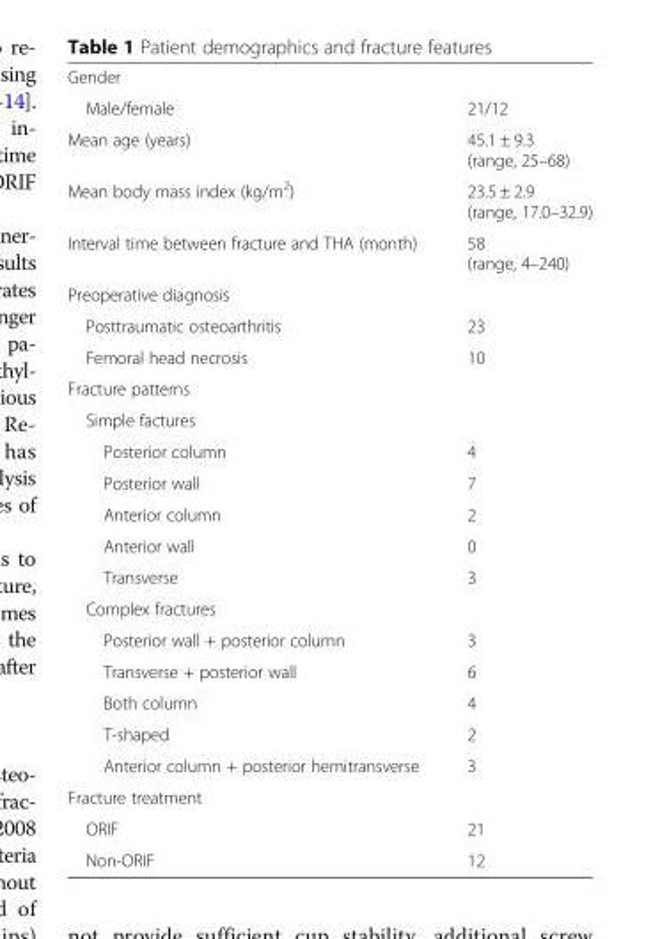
<table><tbody><tr><td colspan="2">Gender</td></tr><tr><td>Male/female</td><td>21/12</td></tr><tr><td>Mean age (years)</td><td>45.1 ± 9.3 (range, 25–68)</td></tr><tr><td>Mean body mass index (kg/m<sup>2</sup>)</td><td>23.5 ± 2.9 (range, 17.0–32.9)</td></tr><tr><td>Interval time between fracture and THA (month)</td><td>58 (range, 4–240)</td></tr><tr><td colspan="2">Preoperative diagnosis</td></tr><tr><td>Posttraumatic osteoarthritis</td><td>23</td></tr><tr><td>Femoral head necrosis</td><td>10</td></tr><tr><td colspan="2">Fracture patterns</td></tr><tr><td colspan="2">Simple factures</td></tr><tr><td>Posterior column</td><td>4</td></tr><tr><td>Posterior wall</td><td>7</td></tr><tr><td>Anterior column</td><td>2</td></tr><tr><td>Anterior wall</td><td>0</td></tr><tr><td>Transverse</td><td>3</td></tr><tr><td colspan="2">Complex fractures</td></tr><tr><td>Posterior wall + posterior column</td><td>3</td></tr><tr><td>Transverse + posterior wall</td><td>6</td></tr><tr><td>Both column</td><td>4</td></tr><tr><td>T-shaped</td><td>2</td></tr><tr><td>Anterior column + posterior hemitransverse</td><td>3</td></tr><tr><td colspan="2">Fracture treatment</td></tr><tr><td>ORIF</td><td>21</td></tr><tr><td>Non-ORIF</td><td>12</td></tr></tbody></table>